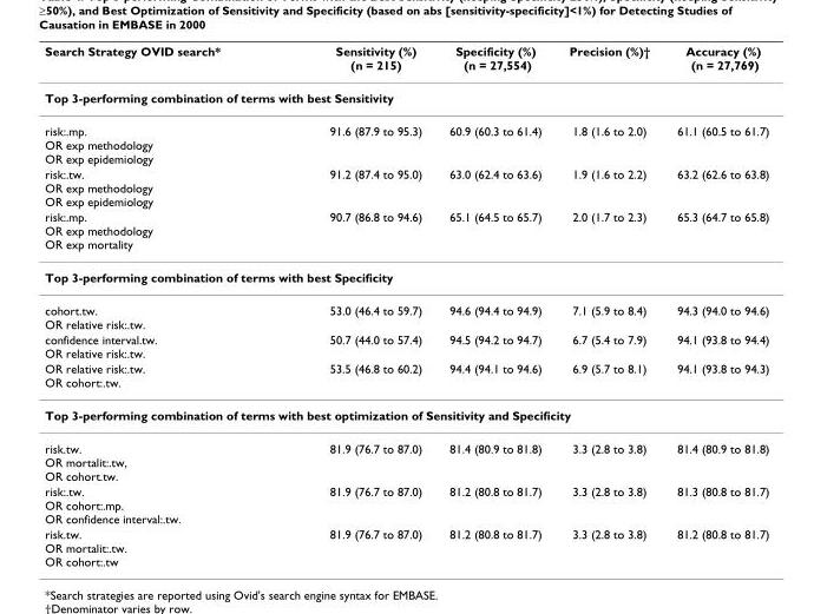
<table><thead><tr><td>Search Strategy OVID search*</td><td>Sensitivity (%) (n = 215)</td><td>Specificity (%) (n = 27,554)</td><td>Precision (%)†</td><td>Accuracy (%) (n = 27,769)</td></tr></thead><tbody><tr><td colspan="5">Top 3-performing combination of terms with best Sensitivity</td></tr><tr><td>risk:.mp. OR exp methodology OR exp epidemiology</td><td>91.6 (87.9 to 95.3)</td><td>60.9 (60.3 to 61.4)</td><td>1.8 (1.6 to 2.0)</td><td>61.1 (60.5 to 61.7)</td></tr><tr><td>risk:.tw. OR exp methodology OR exp epidemiology</td><td>91.2 (87.4 to 95.0)</td><td>63.0 (62.4 to 63.6)</td><td>1.9 (1.6 to 2.2)</td><td>63.2 (62.6 to 63.8)</td></tr><tr><td>risk:.mp. OR exp methodology OR exp mortality</td><td>90.7 (86.8 to 94.6)</td><td>65.1 (64.5 to 65.7)</td><td>2.0 (1.7 to 2.3)</td><td>65.3 (64.7 to 65.8)</td></tr><tr><td colspan="5">Top 3-performing combination of terms with best Specificity</td></tr><tr><td>cohort.tw. OR relative risk:.tw.</td><td>53.0 (46.4 to 59.7)</td><td>94.6 (94.4 to 94.9)</td><td>7.1 (5.9 to 8.4)</td><td>94.3 (94.0 to 94.6)</td></tr><tr><td>confidence interval.tw. OR relative risk:.tw.</td><td>50.7 (44.0 to 57.4)</td><td>94.5 (94.2 to 94.7)</td><td>6.7 (5.4 to 7.9)</td><td>94.1 (93.8 to 94.4)</td></tr><tr><td>OR relative risk:.tw. OR cohort:.tw.</td><td>53.5 (46.8 to 60.2)</td><td>94.4 (94.1 to 94.6)</td><td>6.9 (5.7 to 8.1)</td><td>94.1 (93.8 to 94.3)</td></tr><tr><td colspan="5">Top 3-performing combination of terms with best optimization of Sensitivity and Specificity</td></tr><tr><td>risk.tw. OR mortalit:.tw, OR cohort.tw.</td><td>81.9 (76.7 to 87.0)</td><td>81.4 (80.9 to 81.8)</td><td>3.3 (2.8 to 3.8)</td><td>81.4 (80.9 to 81.8)</td></tr><tr><td>risk:.tw. OR cohort:.mp. OR confidence interval:.tw.</td><td>81.9 (76.7 to 87.0)</td><td>81.2 (80.8 to 81.7)</td><td>3.3 (2.8 to 3.8)</td><td>81.3 (80.8 to 81.7)</td></tr><tr><td>risk.tw. OR mortalit:.tw. OR cohort:.tw</td><td>81.9 (76.7 to 87.0)</td><td>81.2 (80.8 to 81.7)</td><td>3.3 (2.8 to 3.8)</td><td>81.2 (80.8 to 81.7)</td></tr></tbody></table>